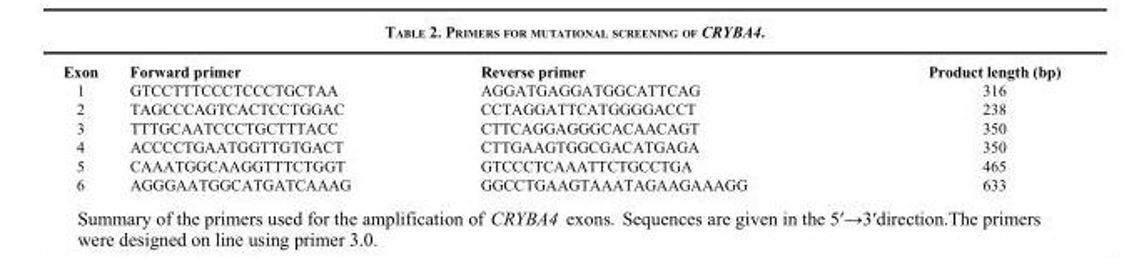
<table><thead><tr><td>Exon</td><td>Forward primer</td><td>Reverse primer</td><td>Product length (bp)</td></tr></thead><tbody><tr><td>1</td><td>GTCCTTTCCCTCCCTGCTAA</td><td>AGGATGAGGATGGCATTCAG</td><td>316</td></tr><tr><td>2</td><td>TAGCCCAGTCACTCCTGGAC</td><td>CCTAGGATTCATGGGGACCT</td><td>238</td></tr><tr><td>3</td><td>TTTGCAATCCCTGCTTTACC</td><td>CTTCAGGAGGGCACAACAGT</td><td>350</td></tr><tr><td>4</td><td>ACCCCTGAATGGTTGTGACT</td><td>CTTGAAGTGGCGACATGAGA</td><td>350</td></tr><tr><td>5</td><td>CAAATGGCAAGGTTTCTGGT</td><td>GTCCCTCAAATTCTGCCTGA</td><td>465</td></tr><tr><td>6</td><td>AGGGAATGGCATGATCAAAG</td><td>GGCCTGAAGTAAATAGAAGAAAGG</td><td>633</td></tr></tbody></table>